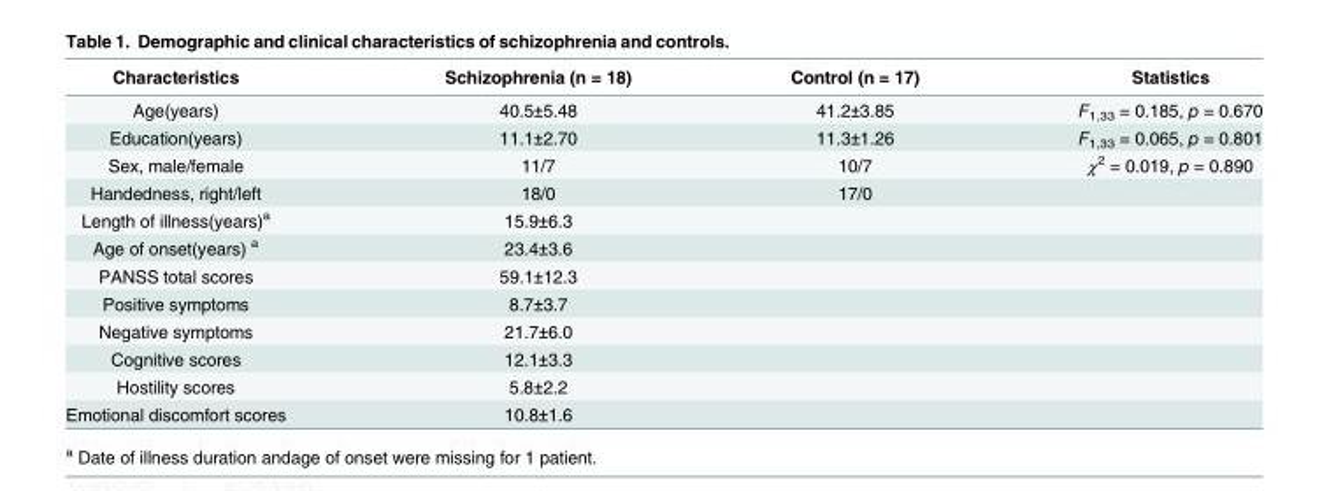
<table><thead><tr><td>Characteristics</td><td>Schizophrenia (n = 18)</td><td>Control (n = 17)</td><td>Statistics</td></tr></thead><tbody><tr><td>Age(years)</td><td>40.5±5.48</td><td>41.2±3.85</td><td>F<sub>1,33</sub> = 0.185, p = 0.670</td></tr><tr><td>Education(years)</td><td>11.1±2.70</td><td>11.3±1.26</td><td>F<sub>1,33</sub> = 0.065, p = 0.801</td></tr><tr><td>Sex, male/female</td><td>11/7</td><td>10/7</td><td>χ<sup>2</sup> = 0.019, p = 0.890</td></tr><tr><td>Handedness, right/left</td><td>18/0</td><td>17/0</td><td></td></tr><tr><td>Length of illness(years)<sup>a</sup></td><td>15.9±6.3</td><td></td><td></td></tr><tr><td>Age of onset(years) <sup>a</sup></td><td>23.4±3.6</td><td></td><td></td></tr><tr><td>PANSS total scores</td><td>59.1±12.3</td><td></td><td></td></tr><tr><td>Positive symptoms</td><td>8.7±3.7</td><td></td><td></td></tr><tr><td>Negative symptoms</td><td>21.7±6.0</td><td></td><td></td></tr><tr><td>Cognitive scores</td><td>12.1±3.3</td><td></td><td></td></tr><tr><td>Hostility scores</td><td>5.8±2.2</td><td></td><td></td></tr><tr><td>Emotional discomfort scores</td><td>10.8±1.6</td><td></td><td></td></tr></tbody></table>